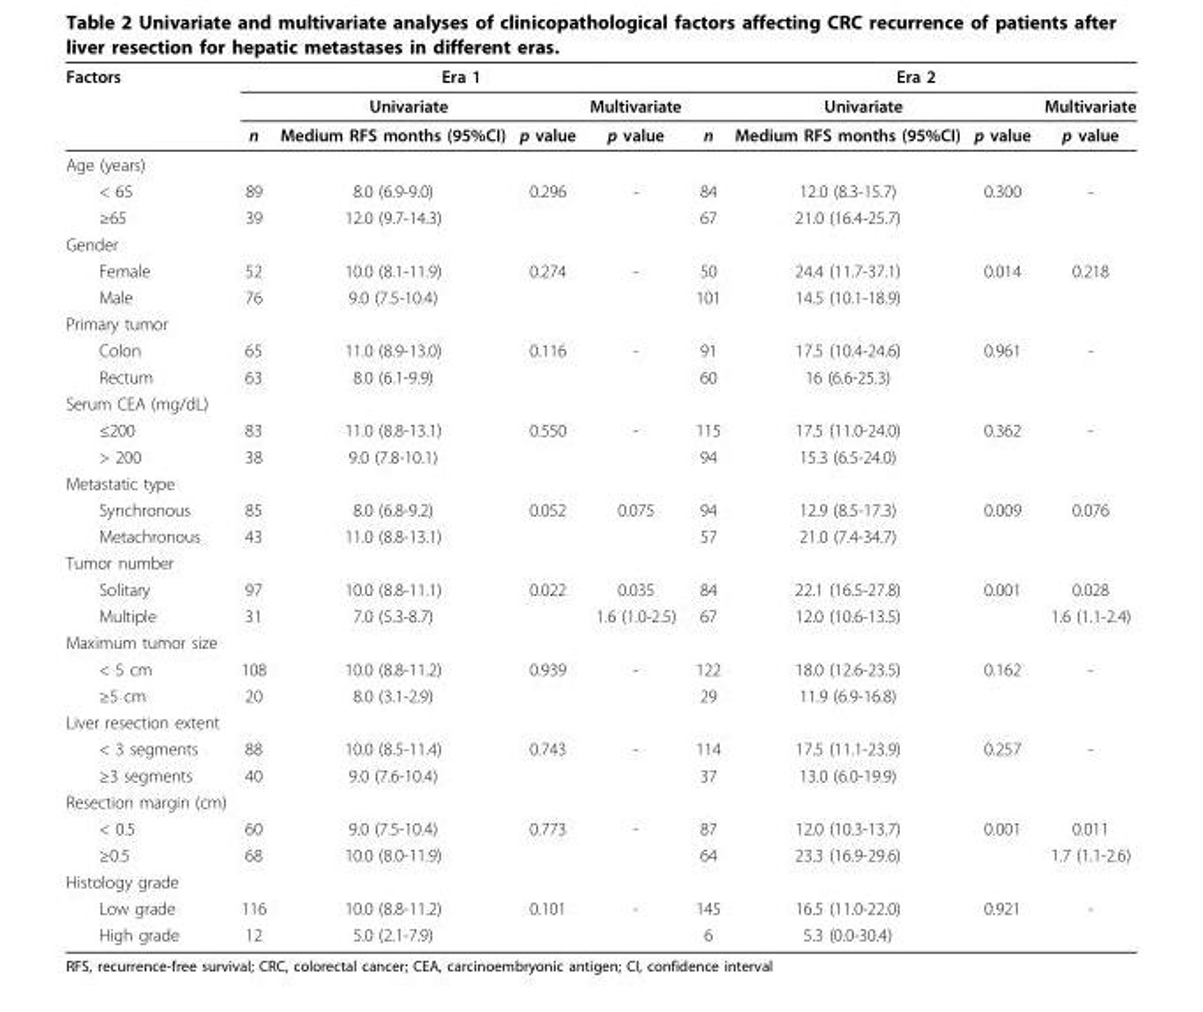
<table><thead><tr><td rowspan="3">Factors</td><td colspan="4">Era 1</td><td colspan="4">Era 2</td></tr><tr><td colspan="3">Univariate</td><td rowspan="2">Multivariate p value</td><td colspan="3">Univariate</td><td rowspan="2">Multivariate p value</td></tr><tr><td>n</td><td>Medium RFS months (95%CI)</td><td>p value</td><td>n</td><td>Medium RFS months (95%CI)</td><td>p value</td></tr></thead><tbody><tr><td colspan="9">Age (years)</td></tr><tr><td>&lt; 65</td><td>89</td><td>8.0 (6.9-9.0)</td><td>0.296</td><td>-</td><td>84</td><td>12.0 (8.3-15.7)</td><td>0.300</td><td>-</td></tr><tr><td>≥65</td><td>39</td><td>12.0 (9.7-14.3)</td><td></td><td></td><td>67</td><td>21.0 (16.4-25.7)</td><td></td><td></td></tr><tr><td colspan="9">Gender</td></tr><tr><td>Female</td><td>52</td><td>10.0 (8.1-11.9)</td><td>0.274</td><td>-</td><td>50</td><td>24.4 (11.7-37.1)</td><td>0.014</td><td>0.218</td></tr><tr><td>Male</td><td>76</td><td>9.0 (7.5-10.4)</td><td></td><td></td><td>101</td><td>14.5 (10.1-18.9)</td><td></td><td></td></tr><tr><td colspan="9">Primary tumor</td></tr><tr><td>Colon</td><td>65</td><td>11.0 (8.9-13.0)</td><td>0.116</td><td>-</td><td>91</td><td>17.5 (10.4-24.6)</td><td>0.961</td><td>-</td></tr><tr><td>Rectum</td><td>63</td><td>8.0 (6.1-9.9)</td><td></td><td></td><td>60</td><td>16 (6.6-25.3)</td><td></td><td></td></tr><tr><td colspan="9">Serum CEA (mg/dL)</td></tr><tr><td>≤200</td><td>83</td><td>11.0 (8.8-13.1)</td><td>0.550</td><td>-</td><td>115</td><td>17.5 (11.0-24.0)</td><td>0.362</td><td>-</td></tr><tr><td>&gt; 200</td><td>38</td><td>9.0 (7.8-10.1)</td><td></td><td></td><td>94</td><td>15.3 (6.5-24.0)</td><td></td><td></td></tr><tr><td colspan="9">Metastatic type</td></tr><tr><td>Synchronous</td><td>85</td><td>8.0 (6.8-9.2)</td><td>0.052</td><td>0.075</td><td>94</td><td>12.9 (8.5-17.3)</td><td>0.009</td><td>0.076</td></tr><tr><td>Metachronous</td><td>43</td><td>11.0 (8.8-13.1)</td><td></td><td></td><td>57</td><td>21.0 (7.4-34.7)</td><td></td><td></td></tr><tr><td colspan="9">Tumor number</td></tr><tr><td>Solitary</td><td>97</td><td>10.0 (8.8-11.1)</td><td>0.022</td><td>0.035</td><td>84</td><td>22.1 (16.5-27.8)</td><td>0.001</td><td>0.028</td></tr><tr><td>Multiple</td><td>31</td><td>7.0 (5.3-8.7)</td><td></td><td>1.6 (1.0-2.5)</td><td>67</td><td>12.0 (10.6-13.5)</td><td></td><td>1.6 (1.1-2.4)</td></tr><tr><td colspan="9">Maximum tumor size</td></tr><tr><td>&lt; 5 cm</td><td>108</td><td>10.0 (8.8-11.2)</td><td>0.939</td><td>-</td><td>122</td><td>18.0 (12.6-23.5)</td><td>0.162</td><td>-</td></tr><tr><td>≥5 cm</td><td>20</td><td>8.0 (3.1-2.9)</td><td></td><td></td><td>29</td><td>11.9 (6.9-16.8)</td><td></td><td></td></tr><tr><td colspan="9">Liver resection extent</td></tr><tr><td>&lt; 3 segments</td><td>88</td><td>10.0 (8.5-11.4)</td><td>0.743</td><td>-</td><td>114</td><td>17.5 (11.1-23.9)</td><td>0.257</td><td>-</td></tr><tr><td>≥3 segments</td><td>40</td><td>9.0 (7.6-10.4)</td><td></td><td></td><td>37</td><td>13.0 (6.0-19.9)</td><td></td><td></td></tr><tr><td colspan="9">Resection margin (cm)</td></tr><tr><td>&lt; 0.5</td><td>60</td><td>9.0 (7.5-10.4)</td><td>0.773</td><td>-</td><td>87</td><td>12.0 (10.3-13.7)</td><td>0.001</td><td>0.011</td></tr><tr><td>≥0.5</td><td>68</td><td>10.0 (8.0-11.9)</td><td></td><td></td><td>64</td><td>23.3 (16.9-29.6)</td><td></td><td>1.7 (1.1-2.6)</td></tr><tr><td colspan="9">Histology grade</td></tr><tr><td>Low grade</td><td>116</td><td>10.0 (8.8-11.2)</td><td>0.101</td><td>-</td><td>145</td><td>16.5 (11.0-22.0)</td><td>0.921</td><td>-</td></tr><tr><td>High grade</td><td>12</td><td>5.0 (2.1-7.9)</td><td></td><td></td><td>6</td><td>5.3 (0.0-30.4)</td><td></td><td></td></tr></tbody></table>